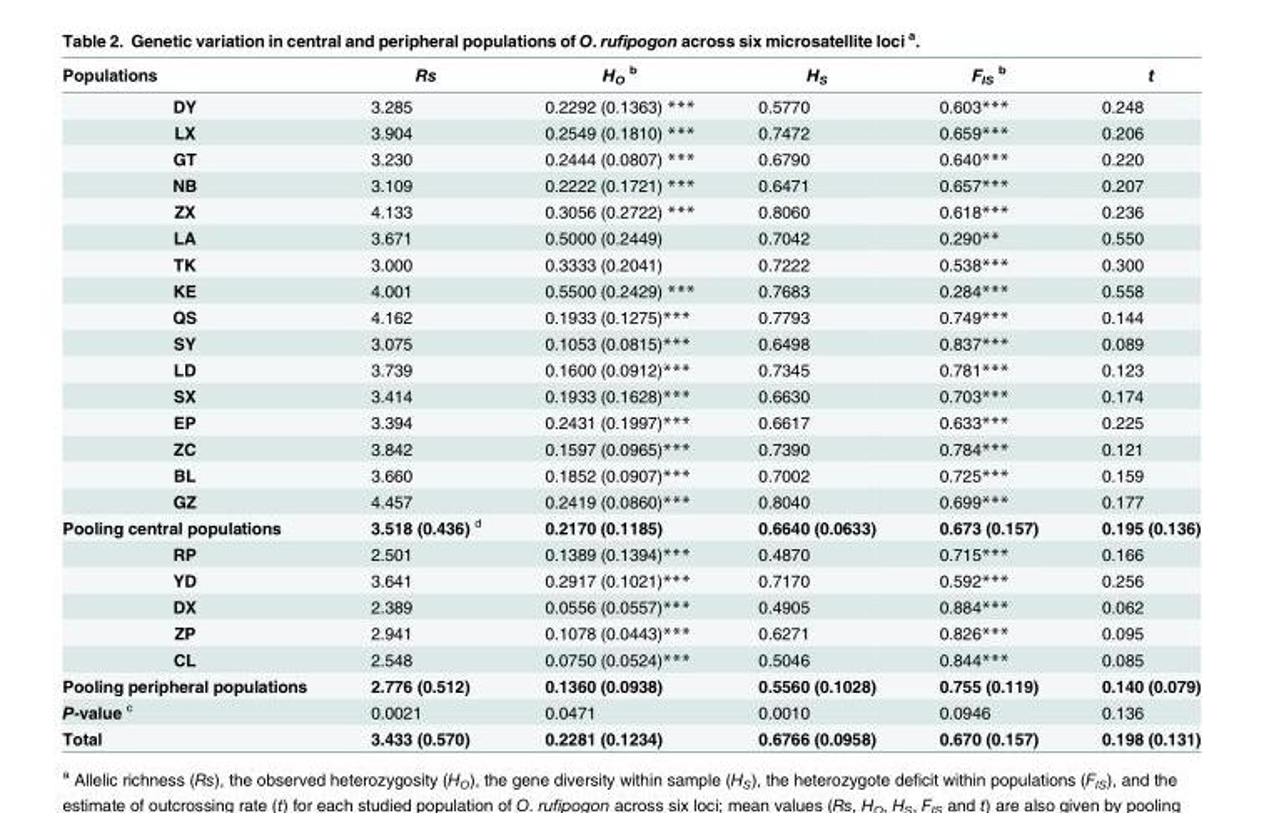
<table><thead><tr><td>Populations</td><td>Rs</td><td>H<sub>O</sub> <sup>b</sup></td><td>H<sub>S</sub></td><td>F<sub>IS</sub> <sup>b</sup></td><td>t</td></tr></thead><tbody><tr><td>DY</td><td>3.285</td><td>0.2292 (0.1363) ***</td><td>0.5770</td><td>0.603***</td><td>0.248</td></tr><tr><td>LX</td><td>3.904</td><td>0.2549 (0.1810) ***</td><td>0.7472</td><td>0.659***</td><td>0.206</td></tr><tr><td>GT</td><td>3.230</td><td>0.2444 (0.0807) ***</td><td>0.6790</td><td>0.640***</td><td>0.220</td></tr><tr><td>NB</td><td>3.109</td><td>0.2222 (0.1721) ***</td><td>0.6471</td><td>0.657***</td><td>0.207</td></tr><tr><td>ZX</td><td>4.133</td><td>0.3056 (0.2722) ***</td><td>0.8060</td><td>0.618***</td><td>0.236</td></tr><tr><td>LA</td><td>3.671</td><td>0.5000 (0.2449)</td><td>0.7042</td><td>0.290**</td><td>0.550</td></tr><tr><td>TK</td><td>3.000</td><td>0.3333 (0.2041)</td><td>0.7222</td><td>0.538***</td><td>0.300</td></tr><tr><td>KE</td><td>4.001</td><td>0.5500 (0.2429) ***</td><td>0.7683</td><td>0.284***</td><td>0.558</td></tr><tr><td>QS</td><td>4.162</td><td>0.1933 (0.1275)***</td><td>0.7793</td><td>0.749***</td><td>0.144</td></tr><tr><td>SY</td><td>3.075</td><td>0.1053 (0.0815)***</td><td>0.6498</td><td>0.837***</td><td>0.089</td></tr><tr><td>LD</td><td>3.739</td><td>0.1600 (0.0912)***</td><td>0.7345</td><td>0.781***</td><td>0.123</td></tr><tr><td>SX</td><td>3.414</td><td>0.1933 (0.1628)***</td><td>0.6630</td><td>0.703***</td><td>0.174</td></tr><tr><td>EP</td><td>3.394</td><td>0.2431 (0.1997)***</td><td>0.6617</td><td>0.633***</td><td>0.225</td></tr><tr><td>ZC</td><td>3.842</td><td>0.1597 (0.0965)***</td><td>0.7390</td><td>0.784***</td><td>0.121</td></tr><tr><td>BL</td><td>3.660</td><td>0.1852 (0.0907)***</td><td>0.7002</td><td>0.725***</td><td>0.159</td></tr><tr><td>GZ</td><td>4.457</td><td>0.2419 (0.0860)***</td><td>0.8040</td><td>0.699***</td><td>0.177</td></tr><tr><td>Pooling central populations</td><td>3.518 (0.436) <sup>d</sup></td><td>0.2170 (0.1185)</td><td>0.6640 (0.0633)</td><td>0.673 (0.157)</td><td>0.195 (0.136)</td></tr><tr><td>RP</td><td>2.501</td><td>0.1389 (0.1394)***</td><td>0.4870</td><td>0.715***</td><td>0.166</td></tr><tr><td>YD</td><td>3.641</td><td>0.2917 (0.1021)***</td><td>0.7170</td><td>0.592***</td><td>0.256</td></tr><tr><td>DX</td><td>2.389</td><td>0.0556 (0.0557)***</td><td>0.4905</td><td>0.884***</td><td>0.062</td></tr><tr><td>ZP</td><td>2.941</td><td>0.1078 (0.0443)***</td><td>0.6271</td><td>0.826***</td><td>0.095</td></tr><tr><td>CL</td><td>2.548</td><td>0.0750 (0.0524)***</td><td>0.5046</td><td>0.844***</td><td>0.085</td></tr><tr><td>Pooling peripheral populations</td><td>2.776 (0.512)</td><td>0.1360 (0.0938)</td><td>0.5560 (0.1028)</td><td>0.755 (0.119)</td><td>0.140 (0.079)</td></tr><tr><td>P-value <sup>c</sup></td><td>0.0021</td><td>0.0471</td><td>0.0010</td><td>0.0946</td><td>0.136</td></tr><tr><td>Total</td><td>3.433 (0.570)</td><td>0.2281 (0.1234)</td><td>0.6766 (0.0958)</td><td>0.670 (0.157)</td><td>0.198 (0.131)</td></tr></tbody></table>